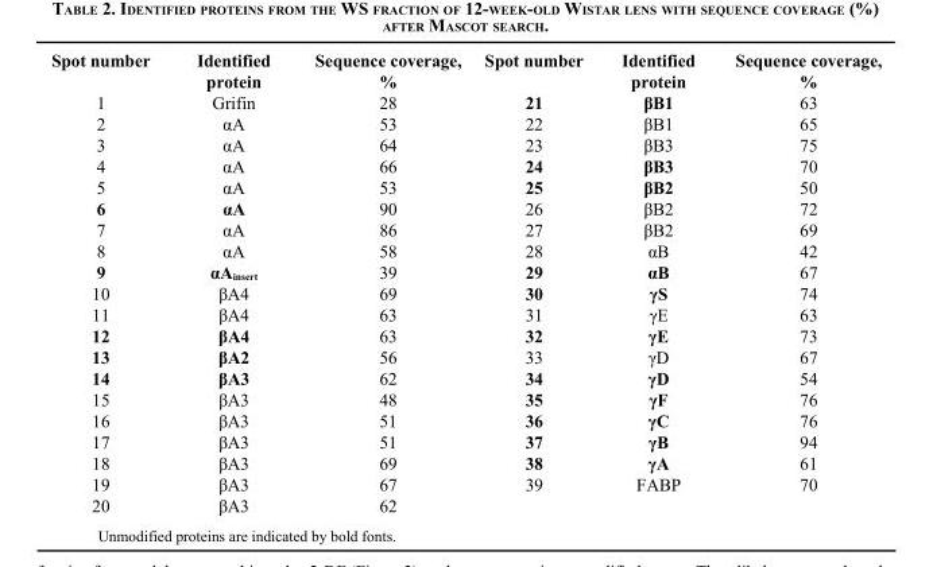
<table><thead><tr><td>Spot number</td><td>Identified protein</td><td>Sequence coverage, %</td><td>Spot number</td><td>Identified protein</td><td>Sequence coverage, %</td></tr></thead><tbody><tr><td>1</td><td>Grifin</td><td>28</td><td>21</td><td>βB1</td><td>63</td></tr><tr><td>2</td><td>αA</td><td>53</td><td>22</td><td>βB1</td><td>65</td></tr><tr><td>3</td><td>αA</td><td>64</td><td>23</td><td>βB3</td><td>75</td></tr><tr><td>4</td><td>αA</td><td>66</td><td>24</td><td>βB3</td><td>70</td></tr><tr><td>5</td><td>αA</td><td>53</td><td>25</td><td>βB2</td><td>50</td></tr><tr><td>6</td><td>αA</td><td>90</td><td>26</td><td>βB2</td><td>72</td></tr><tr><td>7</td><td>αA</td><td>86</td><td>27</td><td>βB2</td><td>69</td></tr><tr><td>8</td><td>αA</td><td>58</td><td>28</td><td>αB</td><td>42</td></tr><tr><td>9</td><td>αA<sub>insert</sub></td><td>39</td><td>29</td><td>αB</td><td>67</td></tr><tr><td>10</td><td>βA4</td><td>69</td><td>30</td><td>γS</td><td>74</td></tr><tr><td>11</td><td>βA4</td><td>63</td><td>31</td><td>γE</td><td>63</td></tr><tr><td>12</td><td>βA4</td><td>63</td><td>32</td><td>γE</td><td>73</td></tr><tr><td>13</td><td>βA2</td><td>56</td><td>33</td><td>γD</td><td>67</td></tr><tr><td>14</td><td>βA3</td><td>62</td><td>34</td><td>γD</td><td>54</td></tr><tr><td>15</td><td>βA3</td><td>48</td><td>35</td><td>γF</td><td>76</td></tr><tr><td>16</td><td>βA3</td><td>51</td><td>36</td><td>γC</td><td>76</td></tr><tr><td>17</td><td>βA3</td><td>51</td><td>37</td><td>γB</td><td>94</td></tr><tr><td>18</td><td>βA3</td><td>69</td><td>38</td><td>γA</td><td>61</td></tr><tr><td>19</td><td>βA3</td><td>67</td><td>39</td><td>FABP</td><td>70</td></tr><tr><td>20</td><td>βA3</td><td>62</td><td></td><td></td><td></td></tr></tbody></table>